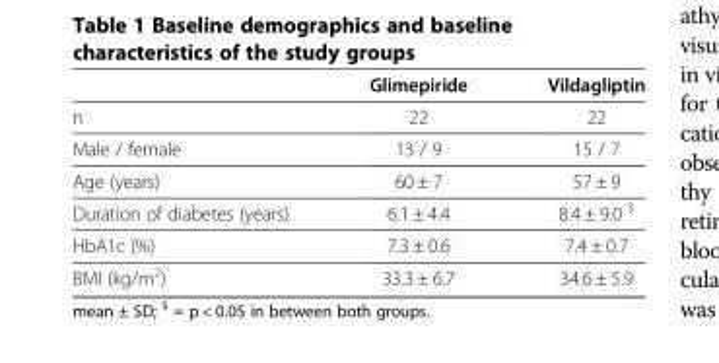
<table><thead><tr><td></td><td>Glimepiride</td><td>Vildagliptin</td></tr></thead><tbody><tr><td>n</td><td>22</td><td>22</td></tr><tr><td>Male / female</td><td>13 / 9</td><td>15 / 7</td></tr><tr><td>Age (years)</td><td>60 ± 7</td><td>57 ± 9</td></tr><tr><td>Duration of diabetes (years)</td><td>6.1 ± 4.4</td><td>8.4 ± 9.0 <sup>$</sup></td></tr><tr><td>HbA1c (%)</td><td>7.3 ± 0.6</td><td>7.4 ± 0.7</td></tr><tr><td>BMI (kg/m<sup>2</sup>)</td><td>33.3 ± 6.7</td><td>34.6 ± 5.9</td></tr></tbody></table>